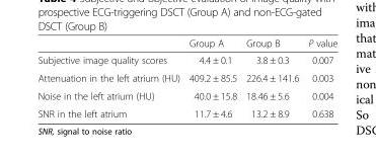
<table><thead><tr><td></td><td>Group A</td><td>Group B</td><td>P value</td></tr></thead><tbody><tr><td>Subjective image quality scores</td><td>4.4 ± 0.1</td><td>3.8 ± 0.3</td><td>0.007</td></tr><tr><td>Attenuation in the left atrium (HU)</td><td>409.2 ± 85.5</td><td>226.4 ± 141.6</td><td>0.003</td></tr><tr><td>Noise in the left atrium (HU)</td><td>40.0 ± 15.8</td><td>18.46 ± 5.6</td><td>0.004</td></tr><tr><td>SNR in the left atrium</td><td>11.7 ± 4.6</td><td>13.2 ± 8.9</td><td>0.638</td></tr></tbody></table>